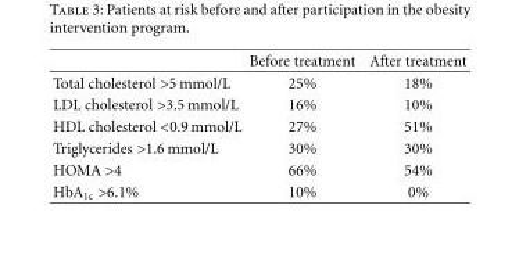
<table><thead><tr><td></td><td>Before treatment</td><td>After treatment</td></tr></thead><tbody><tr><td>Total cholesterol &gt;5 mmol/L</td><td>25%</td><td>18%</td></tr><tr><td>LDL cholesterol &gt;3.5 mmol/L</td><td>16%</td><td>10%</td></tr><tr><td>HDL cholesterol &lt;0.9 mmol/L</td><td>27%</td><td>51%</td></tr><tr><td>Triglycerides &gt;1.6 mmol/L</td><td>30%</td><td>30%</td></tr><tr><td>HOMA &gt;4</td><td>66%</td><td>54%</td></tr><tr><td>HbA<sub>1c</sub> &gt;6.1%</td><td>10%</td><td>0%</td></tr></tbody></table>